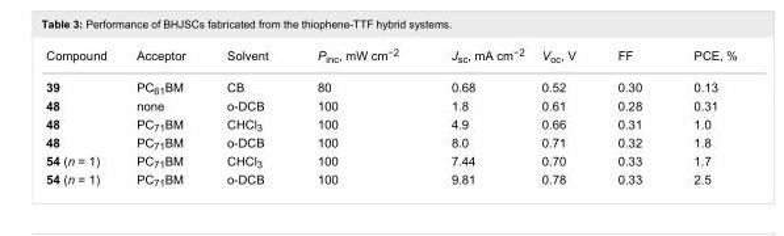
<table><tbody><tr><td>Compound</td><td>Acceptor</td><td>Solvent</td><td>P<sub>inc</sub>, mW cm<sup>−2</sup></td><td>J<sub>sc</sub>, mA cm<sup>−2</sup></td><td>V<sub>oc</sub>, V</td><td>FF</td><td>PCE, %</td></tr><tr><td>39</td><td>PC<sub>61</sub>BM</td><td>CB</td><td>80</td><td>0.68</td><td>0.52</td><td>0.30</td><td>0.13</td></tr><tr><td>48</td><td>none</td><td>o-DCB</td><td>100</td><td>1.8</td><td>0.61</td><td>0.28</td><td>0.31</td></tr><tr><td>48</td><td>PC<sub>71</sub>BM</td><td>CHCl<sub>3</sub></td><td>100</td><td>4.9</td><td>0.66</td><td>0.31</td><td>1.0</td></tr><tr><td>48</td><td>PC<sub>71</sub>BM</td><td>o-DCB</td><td>100</td><td>8.0</td><td>0.71</td><td>0.32</td><td>1.8</td></tr><tr><td>54 (n = 1)</td><td>PC<sub>71</sub>BM</td><td>CHCl<sub>3</sub></td><td>100</td><td>7.44</td><td>0.70</td><td>0.33</td><td>1.7</td></tr><tr><td>54 (n = 1)</td><td>PC<sub>71</sub>BM</td><td>o-DCB</td><td>100</td><td>9.81</td><td>0.78</td><td>0.33</td><td>2.5</td></tr></tbody></table>